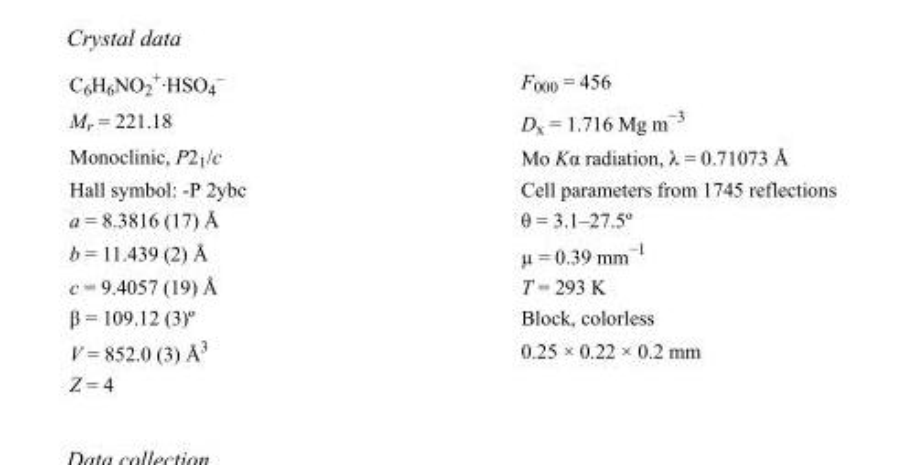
<table><tbody><tr><td>C<sub>6</sub>H<sub>6</sub>NO<sub>2</sub> <sup>+</sup>·HSO<sub>4</sub> <sup>–</sup></td><td>F000 = 456</td></tr><tr><td>M<sub>r</sub> = 221.18</td><td>D<sub>x</sub> = 1.716 Mg m<sup>−3</sup></td></tr><tr><td>Monoclinic, P2<sub>1</sub>/c</td><td>Mo Kα radiation, λ = 0.71073 Å</td></tr><tr><td>Hall symbol: -P 2ybc</td><td>Cell parameters from 1745 reflections</td></tr><tr><td>a = 8.3816 (17) Å</td><td>θ = 3.1–27.5º</td></tr><tr><td>b = 11.439 (2) Å</td><td>µ = 0.39 mm<sup>−1</sup></td></tr><tr><td>c = 9.4057 (19) Å</td><td>T = 293 K</td></tr><tr><td>β = 109.12 (3)º</td><td>Block, colorless</td></tr><tr><td>V = 852.0 (3) Å<sup>3</sup></td><td>0.25 × 0.22 × 0.2 mm</td></tr><tr><td>Z = 4</td><td></td></tr></tbody></table>